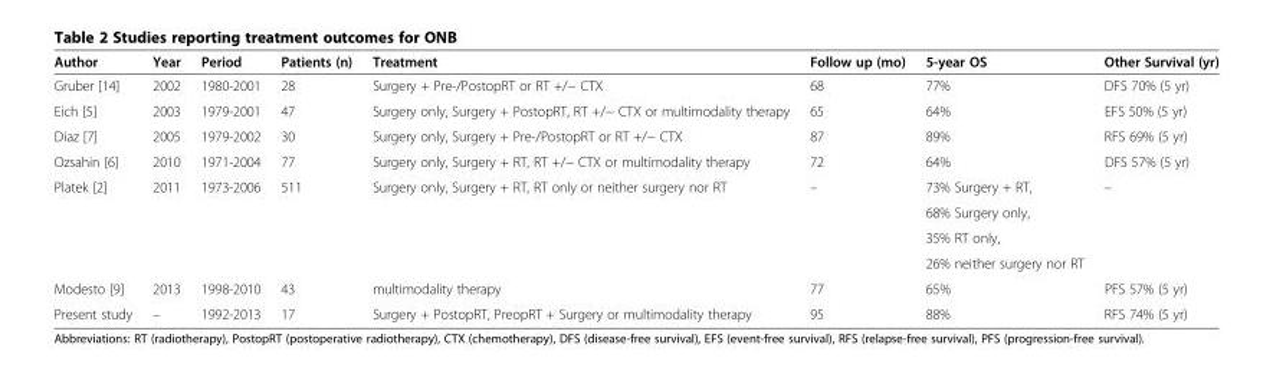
<table><thead><tr><td>Author</td><td>Year</td><td>Period</td><td>Patients (n)</td><td>Treatment</td><td>Follow up (mo)</td><td>5-year OS</td><td>Other Survival (yr)</td></tr></thead><tbody><tr><td>Gruber [14]</td><td>2002</td><td>1980-2001</td><td>28</td><td>Surgery + Pre-/PostopRT or RT +/− CTX</td><td>68</td><td>77%</td><td>DFS 70% (5 yr)</td></tr><tr><td>Eich [5]</td><td>2003</td><td>1979-2001</td><td>47</td><td>Surgery only, Surgery + PostopRT, RT +/− CTX or multimodality therapy</td><td>65</td><td>64%</td><td>EFS 50% (5 yr)</td></tr><tr><td>Diaz [7]</td><td>2005</td><td>1979-2002</td><td>30</td><td>Surgery only, Surgery + Pre-/PostopRT or RT +/− CTX</td><td>87</td><td>89%</td><td>RFS 69% (5 yr)</td></tr><tr><td>Ozsahin [6]</td><td>2010</td><td>1971-2004</td><td>77</td><td>Surgery only, Surgery + RT, RT +/− CTX or multimodality therapy</td><td>72</td><td>64%</td><td>DFS 57% (5 yr)</td></tr><tr><td rowspan="4">Platek [2]</td><td rowspan="4">2011</td><td rowspan="4">1973-2006</td><td rowspan="4">511</td><td rowspan="4">Surgery only, Surgery + RT, RT only or neither surgery nor RT</td><td rowspan="4">–</td><td>73% Surgery + RT,</td><td rowspan="4">–</td></tr><tr><td>68% Surgery only,</td></tr><tr><td>35% RT only,</td></tr><tr><td>26% neither surgery nor RT</td></tr><tr><td>Modesto [9]</td><td>2013</td><td>1998-2010</td><td>43</td><td>multimodality therapy</td><td>77</td><td>65%</td><td>PFS 57% (5 yr)</td></tr><tr><td>Present study</td><td>–</td><td>1992-2013</td><td>17</td><td>Surgery + PostopRT, PreopRT + Surgery or multimodality therapy</td><td>95</td><td>88%</td><td>RFS 74% (5 yr)</td></tr></tbody></table>